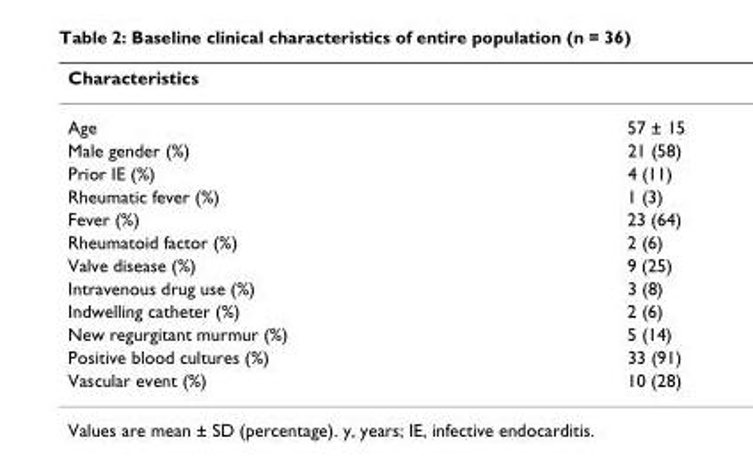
<table><thead><tr><td>Characteristics</td><td></td></tr></thead><tbody><tr><td>Age</td><td>57 ± 15</td></tr><tr><td>Male gender (%)</td><td>21 (58)</td></tr><tr><td>Prior IE (%)</td><td>4 (11)</td></tr><tr><td>Rheumatic fever (%)</td><td>1 (3)</td></tr><tr><td>Fever (%)</td><td>23 (64)</td></tr><tr><td>Rheumatoid factor (%)</td><td>2 (6)</td></tr><tr><td>Valve disease (%)</td><td>9 (25)</td></tr><tr><td>Intravenous drug use (%)</td><td>3 (8)</td></tr><tr><td>Indwelling catheter (%)</td><td>2 (6)</td></tr><tr><td>New regurgitant murmur (%)</td><td>5 (14)</td></tr><tr><td>Positive blood cultures (%)</td><td>33 (91)</td></tr><tr><td>Vascular event (%)</td><td>10 (28)</td></tr></tbody></table>